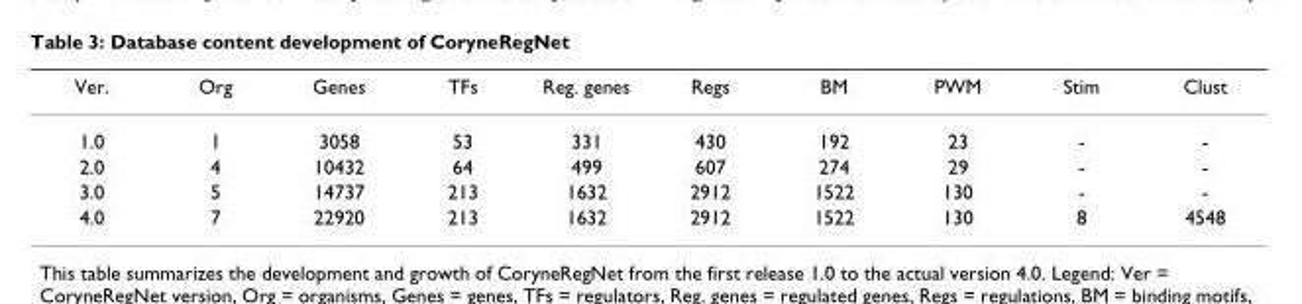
<table><thead><tr><td>Ver.</td><td>Org</td><td>Genes</td><td>TFs</td><td>Reg. genes</td><td>Regs</td><td>BM</td><td>PWM</td><td>Stim</td><td>Clust</td></tr></thead><tbody><tr><td>1.0</td><td>1</td><td>3058</td><td>53</td><td>331</td><td>430</td><td>192</td><td>23</td><td>-</td><td>-</td></tr><tr><td>2.0</td><td>4</td><td>10432</td><td>64</td><td>499</td><td>607</td><td>274</td><td>29</td><td>-</td><td>-</td></tr><tr><td>3.0</td><td>5</td><td>14737</td><td>213</td><td>1632</td><td>2912</td><td>1522</td><td>130</td><td>-</td><td>-</td></tr><tr><td>4.0</td><td>7</td><td>22920</td><td>213</td><td>1632</td><td>2912</td><td>1522</td><td>130</td><td>8</td><td>4548</td></tr></tbody></table>